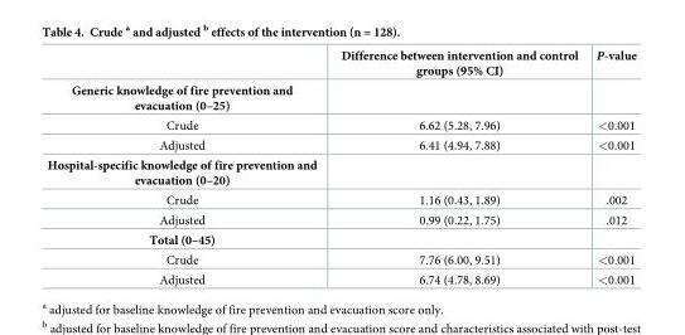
<table><thead><tr><td></td><td>Difference between intervention and control groups (95% CI)</td><td>P-value</td></tr></thead><tbody><tr><td colspan="3">Generic knowledge of fire prevention and evacuation (0–25)</td></tr><tr><td>Crude</td><td>6.62 (5.28, 7.96)</td><td>&lt;0.001</td></tr><tr><td>Adjusted</td><td>6.41 (4.94, 7.88)</td><td>&lt;0.001</td></tr><tr><td colspan="3">Hospital-specific knowledge of fire prevention and evacuation (0–20)</td></tr><tr><td>Crude</td><td>1.16 (0.43, 1.89)</td><td>.002</td></tr><tr><td>Adjusted</td><td>0.99 (0.22, 1.75)</td><td>.012</td></tr><tr><td colspan="3">Total (0–45)</td></tr><tr><td>Crude</td><td>7.76 (6.00, 9.51)</td><td>&lt;0.001</td></tr><tr><td>Adjusted</td><td>6.74 (4.78, 8.69)</td><td>&lt;0.001</td></tr></tbody></table>